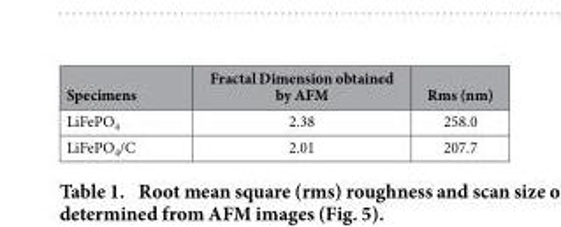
<table><thead><tr><td>Specimens</td><td>Fractal Dimension obtained by AFM</td><td>Rms (nm)</td></tr></thead><tbody><tr><td>LiFePO<sub>4</sub></td><td>2.38</td><td>258.0</td></tr><tr><td>LiFePO<sub>4</sub>/C</td><td>2.01</td><td>207.7</td></tr></tbody></table>